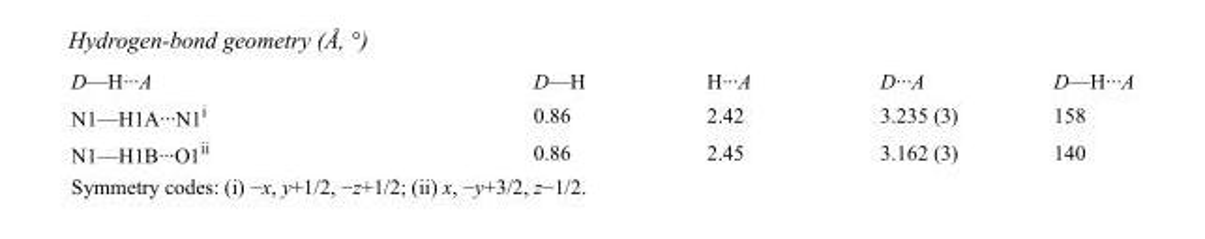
<table><tbody><tr><td>D—H···A</td><td>D—H</td><td>H···A</td><td>D···A</td><td>D—H···A</td></tr><tr><td>N1—H1A···N1<sup>i</sup></td><td>0.86</td><td>2.42</td><td>3.235 (3)</td><td>158</td></tr><tr><td>N1—H1B···O1<sup>ii</sup></td><td>0.86</td><td>2.45</td><td>3.162 (3)</td><td>140</td></tr></tbody></table>